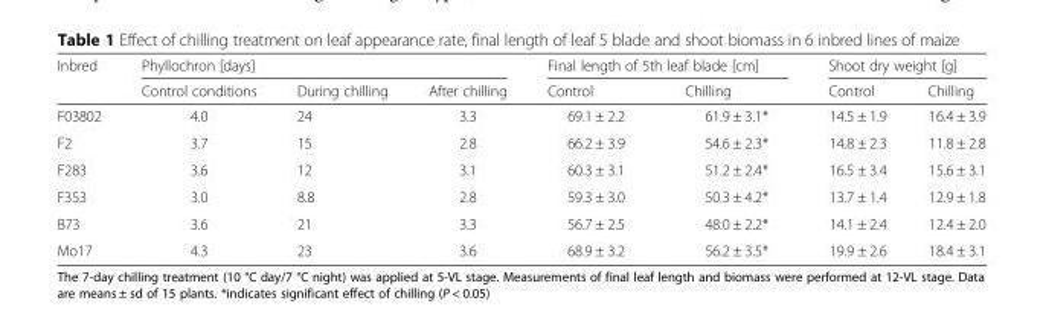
<table><thead><tr><td rowspan="2">Inbred</td><td colspan="3">Phyllochron [days]</td><td colspan="2">Final length of 5th leaf blade [cm]</td><td colspan="2">Shoot dry weight [g]</td></tr><tr><td>Control conditions</td><td>During chilling</td><td>After chilling</td><td>Control</td><td>Chilling</td><td>Control</td><td>Chilling</td></tr></thead><tbody><tr><td>F03802</td><td>4.0</td><td>24</td><td>3.3</td><td>69.1 ± 2.2</td><td>61.9 ± 3.1*</td><td>14.5 ± 1.9</td><td>16.4 ± 3.9</td></tr><tr><td>F2</td><td>3.7</td><td>15</td><td>2.8</td><td>66.2 ± 3.9</td><td>54.6 ± 2.3*</td><td>14.8 ± 2.3</td><td>11.8 ± 2.8</td></tr><tr><td>F283</td><td>3.6</td><td>12</td><td>3.1</td><td>60.3 ± 3.1</td><td>51.2 ± 2.4*</td><td>16.5 ± 3.4</td><td>15.6 ± 3.1</td></tr><tr><td>F353</td><td>3.0</td><td>8.8</td><td>2.8</td><td>59.3 ± 3.0</td><td>50.3 ± 4.2*</td><td>13.7 ± 1.4</td><td>12.9 ± 1.8</td></tr><tr><td>B73</td><td>3.6</td><td>21</td><td>3.3</td><td>56.7 ± 2.5</td><td>48.0 ± 2.2*</td><td>14.1 ± 2.4</td><td>12.4 ± 2.0</td></tr><tr><td>Mo17</td><td>4.3</td><td>23</td><td>3.6</td><td>68.9 ± 3.2</td><td>56.2 ± 3.5*</td><td>19.9 ± 2.6</td><td>18.4 ± 3.1</td></tr></tbody></table>